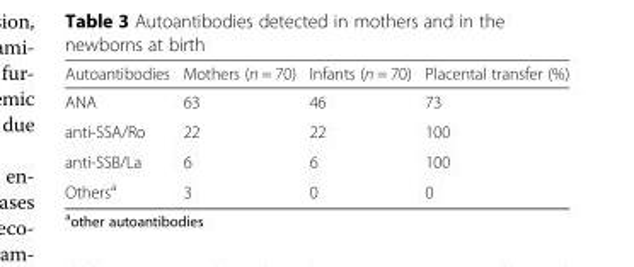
<table><thead><tr><td>Autoantibodies</td><td>Mothers (n = 70)</td><td>Infants (n = 70)</td><td>Placental transfer (%)</td></tr></thead><tbody><tr><td>ANA</td><td>63</td><td>46</td><td>73</td></tr><tr><td>anti-SSA/Ro</td><td>22</td><td>22</td><td>100</td></tr><tr><td>anti-SSB/La</td><td>6</td><td>6</td><td>100</td></tr><tr><td>Others<sup>a</sup></td><td>3</td><td>0</td><td>0</td></tr></tbody></table>